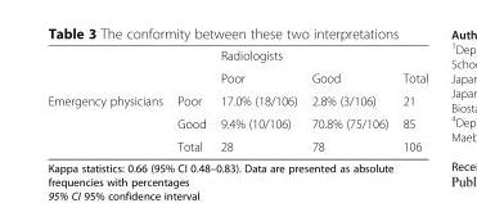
<table><thead><tr><td rowspan="2"></td><td rowspan="2"></td><td colspan="3">Radiologists</td></tr><tr><td>Poor</td><td>Good</td><td>Total</td></tr></thead><tbody><tr><td rowspan="3">Emergency physicians</td><td>Poor</td><td>17.0% (18/106)</td><td>2.8% (3/106)</td><td>21</td></tr><tr><td>Good</td><td>9.4% (10/106)</td><td>70.8% (75/106)</td><td>85</td></tr><tr><td>Total</td><td>28</td><td>78</td><td>106</td></tr></tbody></table>